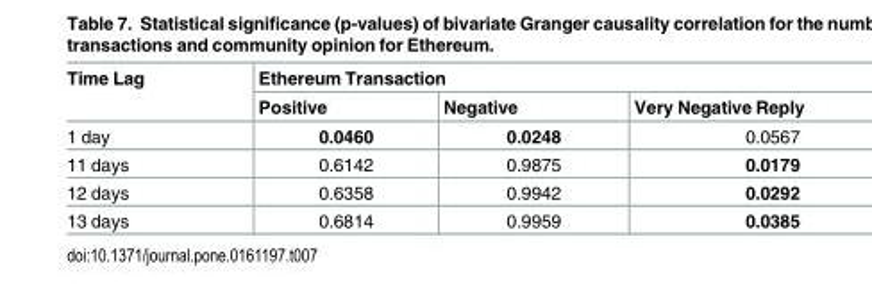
<table><thead><tr><td rowspan="2">Time Lag</td><td colspan="3">Ethereum Transaction</td></tr><tr><td>Positive</td><td>Negative</td><td>Very Negative Reply</td></tr></thead><tbody><tr><td>1 day</td><td>0.0460</td><td>0.0248</td><td>0.0567</td></tr><tr><td>11 days</td><td>0.6142</td><td>0.9875</td><td>0.0179</td></tr><tr><td>12 days</td><td>0.6358</td><td>0.9942</td><td>0.0292</td></tr><tr><td>13 days</td><td>0.6814</td><td>0.9959</td><td>0.0385</td></tr></tbody></table>